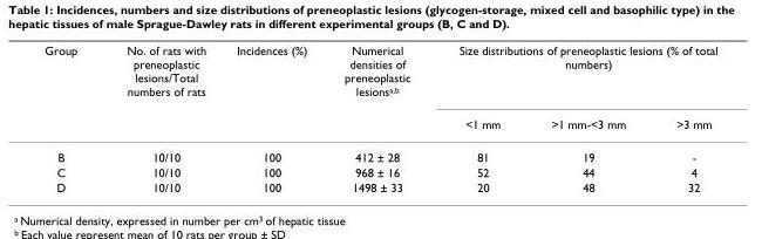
<table><thead><tr><td rowspan="2">Group</td><td rowspan="2">No. of rats with preneoplastic lesions/Total numbers of rats</td><td rowspan="2">Incidences (%)</td><td rowspan="2">Numerical densities of preneoplastic lesions<sup>a,b</sup></td><td colspan="3">Size distributions of preneoplastic lesions (% of total numbers)</td></tr><tr><td>&lt;1 mm</td><td>&gt;1 mm-&lt;3 mm</td><td>&gt;3 mm</td></tr></thead><tbody><tr><td>B</td><td>10/10</td><td>100</td><td>412 ± 28</td><td>81</td><td>19</td><td>-</td></tr><tr><td>C</td><td>10/10</td><td>100</td><td>968 ± 16</td><td>52</td><td>44</td><td>4</td></tr><tr><td>D</td><td>10/10</td><td>100</td><td>1498 ± 33</td><td>20</td><td>48</td><td>32</td></tr></tbody></table>